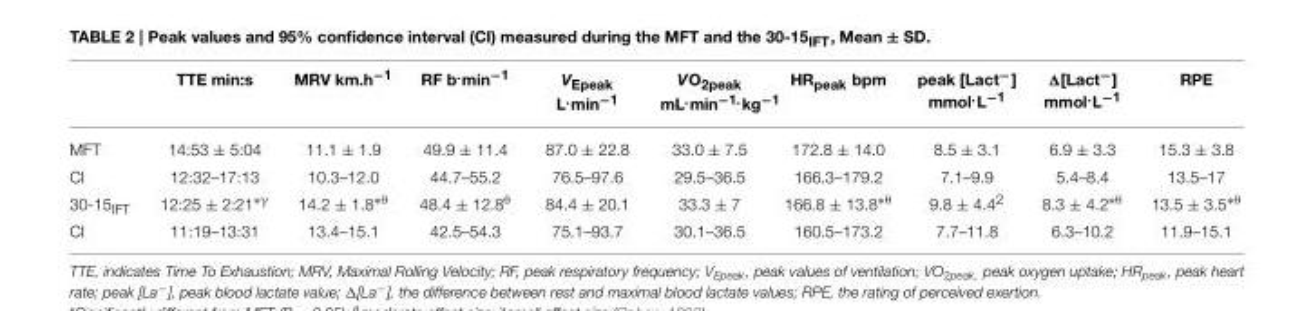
<table><thead><tr><td></td><td>TTE min:s</td><td>MRV km.h<sup>−1</sup></td><td>RF b<sup>.</sup>min<sup>−1</sup></td><td>V<sub>Epeak</sub> L<sup>.</sup>min<sup>−1</sup></td><td>VO<sub>2peak</sub> mL<sup>.</sup>min<sup>−1.</sup>kg<sup>−1</sup></td><td>HR<sub>peak</sub> bpm</td><td>peak [Lact<sup>−</sup>] mmol<sup>.</sup>L<sup>−1</sup></td><td>Δ[Lact<sup>−</sup>] mmol<sup>.</sup>L<sup>−1</sup></td><td>RPE</td></tr></thead><tbody><tr><td>MFT</td><td>14:53 ± 5:04</td><td>11.1 ± 1.9</td><td>49.9 ± 11.4</td><td>87.0 ± 22.8</td><td>33.0 ± 7.5</td><td>172.8 ± 14.0</td><td>8.5 ± 3.1</td><td>6.9 ± 3.3</td><td>15.3 ± 3.8</td></tr><tr><td>CI</td><td>12:32–17:13</td><td>10.3–12.0</td><td>44.7–55.2</td><td>76.5–97.6</td><td>29.5–36.5</td><td>166.3–179.2</td><td>7.1–9.9</td><td>5.4–8.4</td><td>13.5–17</td></tr><tr><td>30-15<sub>IFT</sub></td><td>12:25 ± 2:21∗γ</td><td>14.2 ± 1.8∗θ</td><td>48.4 ± 12.8<sup>θ</sup></td><td>84.4 ± 20.1</td><td>33.3 ± 7</td><td>166.8 ± 13.8∗θ</td><td>9.8 ± 4.4<sup>2</sup></td><td>8.3 ± 4.2∗θ</td><td>13.5 ± 3.5∗θ</td></tr><tr><td>CI</td><td>11:19–13:31</td><td>13.4–15.1</td><td>42.5–54.3</td><td>75.1–93.7</td><td>30.1–36.5</td><td>160.5–173.2</td><td>7.7–11.8</td><td>6.3–10.2</td><td>11.9–15.1</td></tr></tbody></table>